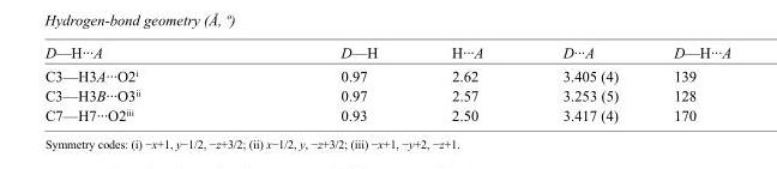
<table><tbody><tr><td>D—H···A</td><td>D—H</td><td>H···A</td><td>D···A</td><td>D—H···A</td></tr><tr><td>C3—H3A···O2<sup>i</sup></td><td>0.97</td><td>2.62</td><td>3.405 (4)</td><td>139</td></tr><tr><td>C3—H3B···O3<sup>ii</sup></td><td>0.97</td><td>2.57</td><td>3.253 (5)</td><td>128</td></tr><tr><td>C7—H7···O2<sup>iii</sup></td><td>0.93</td><td>2.50</td><td>3.417 (4)</td><td>170</td></tr></tbody></table>